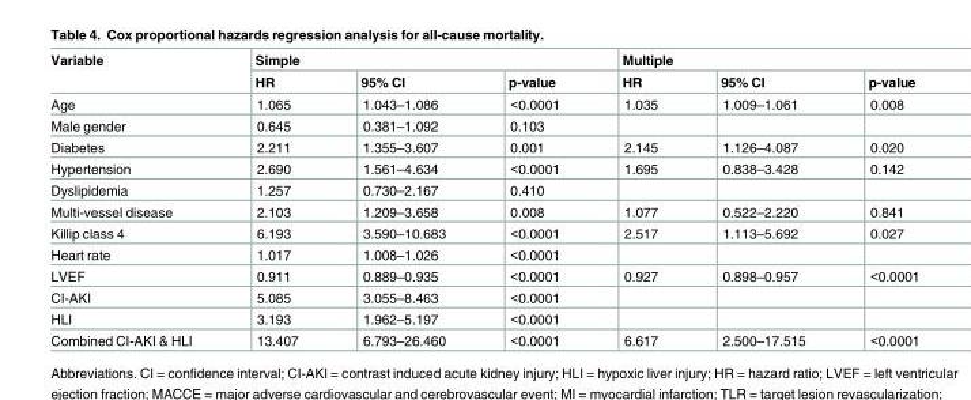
<table><thead><tr><td rowspan="2">Variable</td><td colspan="3">Simple</td><td colspan="3">Multiple</td></tr><tr><td>HR</td><td>95% CI</td><td>p-value</td><td>HR</td><td>95% CI</td><td>p-value</td></tr></thead><tbody><tr><td>Age</td><td>1.065</td><td>1.043–1.086</td><td>&lt;0.0001</td><td>1.035</td><td>1.009–1.061</td><td>0.008</td></tr><tr><td>Male gender</td><td>0.645</td><td>0.381–1.092</td><td>0.103</td><td></td><td></td><td></td></tr><tr><td>Diabetes</td><td>2.211</td><td>1.355–3.607</td><td>0.001</td><td>2.145</td><td>1.126–4.087</td><td>0.020</td></tr><tr><td>Hypertension</td><td>2.690</td><td>1.561–4.634</td><td>&lt;0.0001</td><td>1.695</td><td>0.838–3.428</td><td>0.142</td></tr><tr><td>Dyslipidemia</td><td>1.257</td><td>0.730–2.167</td><td>0.410</td><td></td><td></td><td></td></tr><tr><td>Multi-vessel disease</td><td>2.103</td><td>1.209–3.658</td><td>0.008</td><td>1.077</td><td>0.522–2.220</td><td>0.841</td></tr><tr><td>Killip class 4</td><td>6.193</td><td>3.590–10.683</td><td>&lt;0.0001</td><td>2.517</td><td>1.113–5.692</td><td>0.027</td></tr><tr><td>Heart rate</td><td>1.017</td><td>1.008–1.026</td><td>&lt;0.0001</td><td></td><td></td><td></td></tr><tr><td>LVEF</td><td>0.911</td><td>0.889–0.935</td><td>&lt;0.0001</td><td>0.927</td><td>0.898–0.957</td><td>&lt;0.0001</td></tr><tr><td>CI-AKI</td><td>5.085</td><td>3.055–8.463</td><td>&lt;0.0001</td><td></td><td></td><td></td></tr><tr><td>HLI</td><td>3.193</td><td>1.962–5.197</td><td>&lt;0.0001</td><td></td><td></td><td></td></tr><tr><td>Combined CI-AKI &amp; HLI</td><td>13.407</td><td>6.793–26.460</td><td>&lt;0.0001</td><td>6.617</td><td>2.500–17.515</td><td>&lt;0.0001</td></tr></tbody></table>